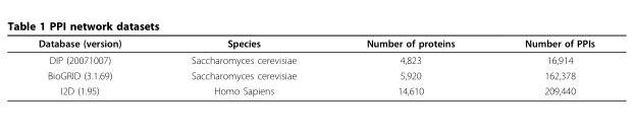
<table><thead><tr><td>Database (version)</td><td>Species</td><td>Number of proteins</td><td>Number of PPIs</td></tr></thead><tbody><tr><td>DIP (20071007)</td><td>Saccharomyces cerevisiae</td><td>4,823</td><td>16,914</td></tr><tr><td>BioGRID (3.1.69)</td><td>Saccharomyces cerevisiae</td><td>5,920</td><td>162,378</td></tr><tr><td>I2D (1.95)</td><td>Homo Sapiens</td><td>14,610</td><td>209,440</td></tr></tbody></table>